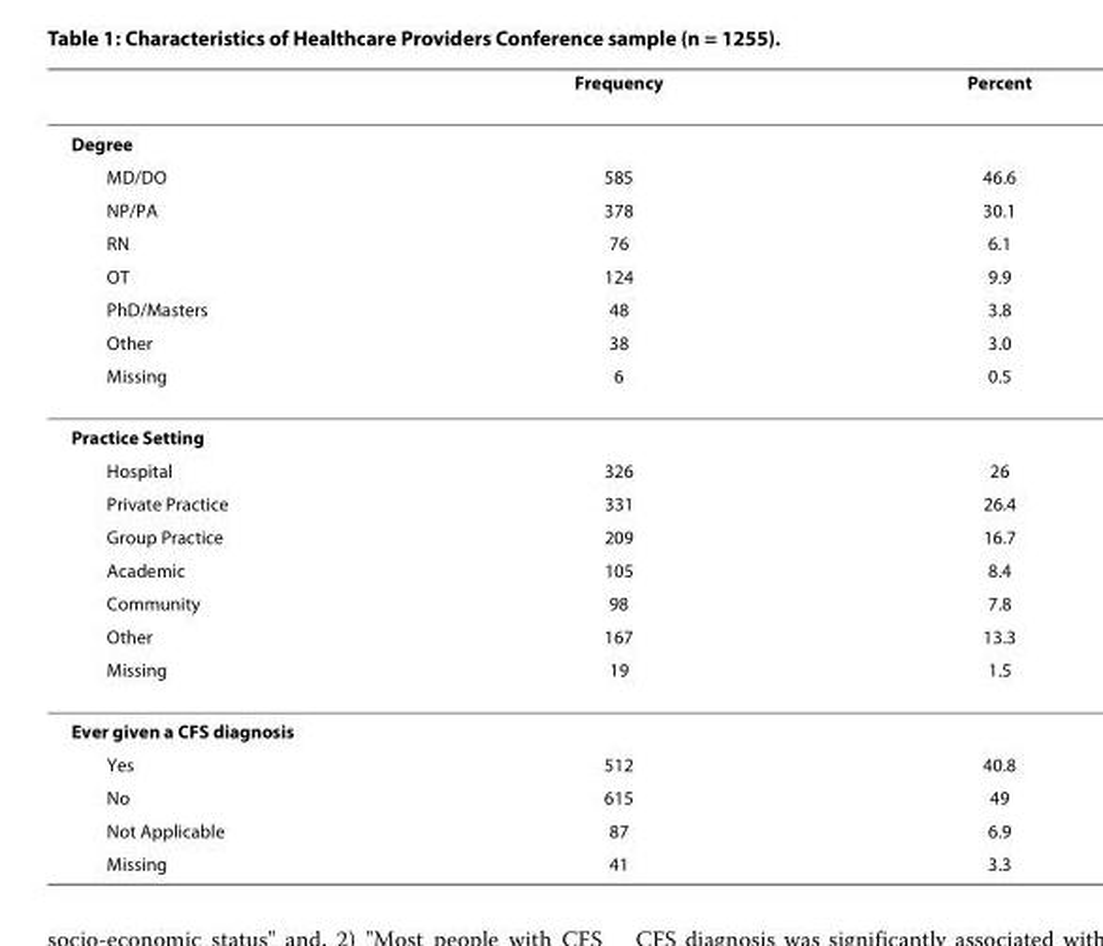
<table><thead><tr><td></td><td>Frequency</td><td>Percent</td></tr></thead><tbody><tr><td colspan="3">Degree</td></tr><tr><td>MD/DO</td><td>585</td><td>46.6</td></tr><tr><td>NP/PA</td><td>378</td><td>30.1</td></tr><tr><td>RN</td><td>76</td><td>6.1</td></tr><tr><td>OT</td><td>124</td><td>9.9</td></tr><tr><td>PhD/Masters</td><td>48</td><td>3.8</td></tr><tr><td>Other</td><td>38</td><td>3.0</td></tr><tr><td>Missing</td><td>6</td><td>0.5</td></tr><tr><td colspan="3">Practice Setting</td></tr><tr><td>Hospital</td><td>326</td><td>26</td></tr><tr><td>Private Practice</td><td>331</td><td>26.4</td></tr><tr><td>Group Practice</td><td>209</td><td>16.7</td></tr><tr><td>Academic</td><td>105</td><td>8.4</td></tr><tr><td>Community</td><td>98</td><td>7.8</td></tr><tr><td>Other</td><td>167</td><td>13.3</td></tr><tr><td>Missing</td><td>19</td><td>1.5</td></tr><tr><td colspan="3">Ever given a CFS diagnosis</td></tr><tr><td>Yes</td><td>512</td><td>40.8</td></tr><tr><td>No</td><td>615</td><td>49</td></tr><tr><td>Not Applicable</td><td>87</td><td>6.9</td></tr><tr><td>Missing</td><td>41</td><td>3.3</td></tr></tbody></table>